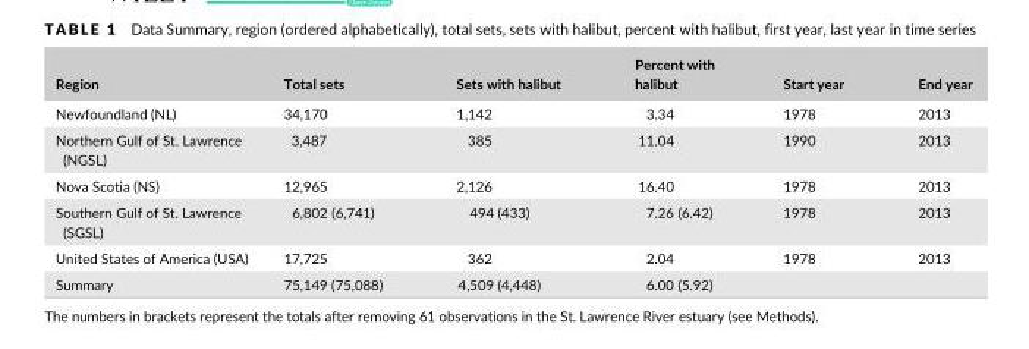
<table><thead><tr><td>Region</td><td>Total sets</td><td>Sets with halibut</td><td>Percent with halibut</td><td>Start year</td><td>End year</td></tr></thead><tbody><tr><td>Newfoundland (NL)</td><td>34,170</td><td>1,142</td><td>3.34</td><td>1978</td><td>2013</td></tr><tr><td>Northern Gulf of St. Lawrence (NGSL)</td><td>3,487</td><td>385</td><td>11.04</td><td>1990</td><td>2013</td></tr><tr><td>Nova Scotia (NS)</td><td>12,965</td><td>2,126</td><td>16.40</td><td>1978</td><td>2013</td></tr><tr><td>Southern Gulf of St. Lawrence (SGSL)</td><td>6,802 (6,741)</td><td>494 (433)</td><td>7.26 (6.42)</td><td>1978</td><td>2013</td></tr><tr><td>United States of America (USA)</td><td>17,725</td><td>362</td><td>2.04</td><td>1978</td><td>2013</td></tr><tr><td>Summary</td><td>75,149 (75,088)</td><td>4,509 (4,448)</td><td>6.00 (5.92)</td><td></td><td></td></tr></tbody></table>